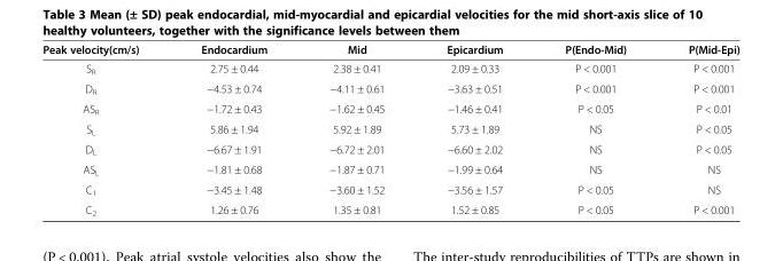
<table><thead><tr><td>Peak velocity(cm/s)</td><td>Endocardium</td><td>Mid</td><td>Epicardium</td><td>P(Endo-Mid)</td><td>P(Mid-Epi)</td></tr></thead><tbody><tr><td>S<sub>R</sub></td><td>2.75 ± 0.44</td><td>2.38 ± 0.41</td><td>2.09 ± 0.33</td><td>P &lt; 0.001</td><td>P &lt; 0.001</td></tr><tr><td>D<sub>R</sub></td><td>−4.53 ± 0.74</td><td>−4.11 ± 0.61</td><td>−3.63 ± 0.51</td><td>P &lt; 0.001</td><td>P &lt; 0.001</td></tr><tr><td>AS<sub>R</sub></td><td>−1.72 ± 0.43</td><td>−1.62 ± 0.45</td><td>−1.46 ± 0.41</td><td>P &lt; 0.05</td><td>P &lt; 0.01</td></tr><tr><td>S<sub>L</sub></td><td>5.86 ± 1.94</td><td>5.92 ± 1.89</td><td>5.73 ± 1.89</td><td>NS</td><td>P &lt; 0.05</td></tr><tr><td>D<sub>L</sub></td><td>−6.67 ± 1.91</td><td>−6.72 ± 2.01</td><td>−6.60 ± 2.02</td><td>NS</td><td>P &lt; 0.05</td></tr><tr><td>AS<sub>L</sub></td><td>−1.81 ± 0.68</td><td>−1.87 ± 0.71</td><td>−1.99 ± 0.64</td><td>NS</td><td>NS</td></tr><tr><td>C<sub>1</sub></td><td>−3.45 ± 1.48</td><td>−3.60 ± 1.52</td><td>−3.56 ± 1.57</td><td>P &lt; 0.05</td><td>NS</td></tr><tr><td>C<sub>2</sub></td><td>1.26 ± 0.76</td><td>1.35 ± 0.81</td><td>1.52 ± 0.85</td><td>P &lt; 0.05</td><td>P &lt; 0.001</td></tr></tbody></table>